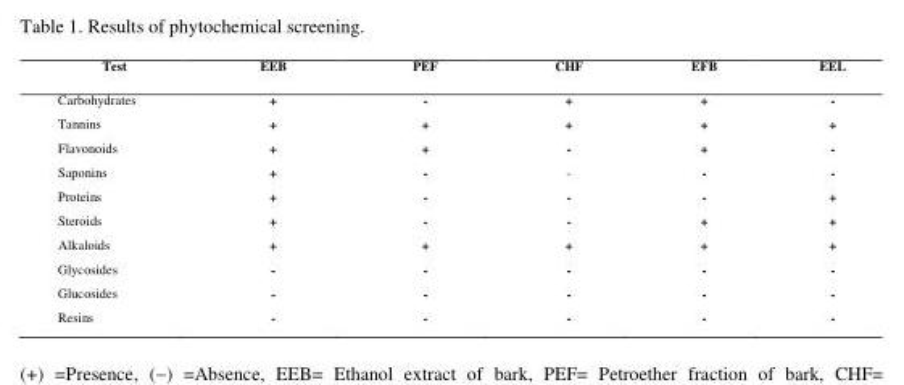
<table><thead><tr><td><sup>Test</sup></td><td><sup>EEB</sup></td><td><sup>PEF</sup></td><td><sup>CHF</sup></td><td><sup>EFB</sup></td><td><sup>EEL</sup></td></tr></thead><tbody><tr><td><sup>Carbohydrates</sup></td><td><sup>+</sup></td><td><sup>-</sup></td><td><sup>+</sup></td><td><sup>+</sup></td><td><sup>-</sup></td></tr><tr><td><sup>Tannins</sup></td><td><sup>+</sup></td><td><sup>+</sup></td><td><sup>+</sup></td><td><sup>+</sup></td><td><sup>+</sup></td></tr><tr><td><sup>Flavonoids</sup></td><td><sup>+</sup></td><td><sup>+</sup></td><td><sup>-</sup></td><td><sup>+</sup></td><td><sup>-</sup></td></tr><tr><td><sup>Saponins</sup></td><td><sup>+</sup></td><td><sup>-</sup></td><td><sup>-</sup></td><td><sup>-</sup></td><td><sup>-</sup></td></tr><tr><td><sup>Proteins</sup></td><td><sup>+</sup></td><td><sup>-</sup></td><td><sup>-</sup></td><td><sup>-</sup></td><td><sup>+</sup></td></tr><tr><td><sup>Steroids</sup></td><td><sup>+</sup></td><td><sup>-</sup></td><td><sup>-</sup></td><td><sup>+</sup></td><td><sup>+</sup></td></tr><tr><td><sup>Alkaloids</sup></td><td><sup>+</sup></td><td><sup>+</sup></td><td><sup>+</sup></td><td><sup>+</sup></td><td><sup>+</sup></td></tr><tr><td><sup>Glycosides</sup></td><td><sup>-</sup></td><td><sup>-</sup></td><td><sup>-</sup></td><td><sup>-</sup></td><td><sup>-</sup></td></tr><tr><td><sup>Glucosides</sup></td><td><sup>-</sup></td><td><sup>-</sup></td><td><sup>-</sup></td><td><sup>-</sup></td><td><sup>-</sup></td></tr><tr><td><sup>Resins</sup></td><td><sup>-</sup></td><td><sup>-</sup></td><td><sup>-</sup></td><td><sup>-</sup></td><td><sup>-</sup></td></tr></tbody></table>